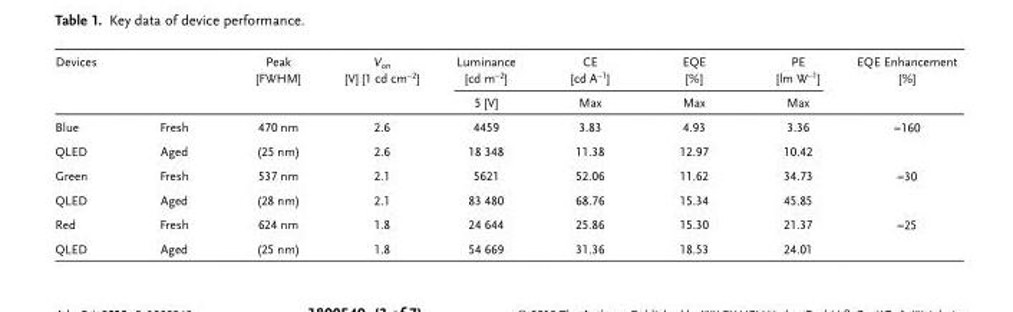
<table><thead><tr><td rowspan="2">Devices</td><td rowspan="2"></td><td rowspan="2">Peak [FWHM]</td><td rowspan="2">V<sub>on</sub> [V] [1 cd cm<sup>−2</sup>]</td><td rowspan="2">Luminance [cd m<sup>−2</sup>] 5 [V]</td><td rowspan="2">CE [cd A<sup>−1</sup>] Max</td><td rowspan="2">EQE [%] Max</td><td rowspan="2">PE [lm W<sup>−1</sup>] Max</td><td rowspan="2">EQE Enhancement [%]</td></tr><tr></tr></thead><tbody><tr><td>Blue</td><td>Fresh</td><td>470 nm</td><td>2.6</td><td>4459</td><td>3.83</td><td>4.93</td><td>3.36</td><td>≈160</td></tr><tr><td>QLED</td><td>Aged</td><td>(25 nm)</td><td>2.6</td><td>18 348</td><td>11.38</td><td>12.97</td><td>10.42</td><td></td></tr><tr><td>Green</td><td>Fresh</td><td>537 nm</td><td>2.1</td><td>5621</td><td>52.06</td><td>11.62</td><td>34.73</td><td>≈30</td></tr><tr><td>QLED</td><td>Aged</td><td>(28 nm)</td><td>2.1</td><td>83 480</td><td>68.76</td><td>15.34</td><td>45.85</td><td></td></tr><tr><td>Red</td><td>Fresh</td><td>624 nm</td><td>1.8</td><td>24 644</td><td>25.86</td><td>15.30</td><td>21.37</td><td>≈25</td></tr><tr><td>QLED</td><td>Aged</td><td>(25 nm)</td><td>1.8</td><td>54 669</td><td>31.36</td><td>18.53</td><td>24.01</td><td></td></tr></tbody></table>